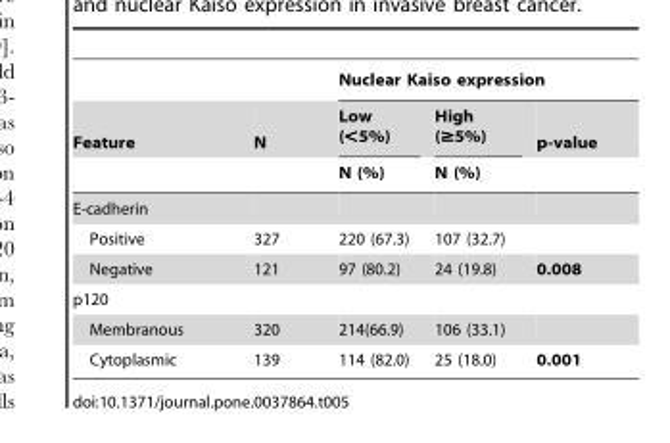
<table><thead><tr><td rowspan="3">Feature</td><td rowspan="3">N</td><td colspan="3">Nuclear Kaiso expression</td></tr><tr><td rowspan="2">Low (&lt;5%) N (%)</td><td rowspan="2">High (≥5%) N (%)</td><td rowspan="2">p-value</td></tr><tr></tr></thead><tbody><tr><td colspan="5">E-cadherin</td></tr><tr><td>Positive</td><td>327</td><td>220 (67.3)</td><td>107 (32.7)</td><td></td></tr><tr><td>Negative</td><td>121</td><td>97 (80.2)</td><td>24 (19.8)</td><td>0.008</td></tr><tr><td colspan="5">p120</td></tr><tr><td>Membranous</td><td>320</td><td>214(66.9)</td><td>106 (33.1)</td><td></td></tr><tr><td>Cytoplasmic</td><td>139</td><td>114 (82.0)</td><td>25 (18.0)</td><td>0.001</td></tr></tbody></table>